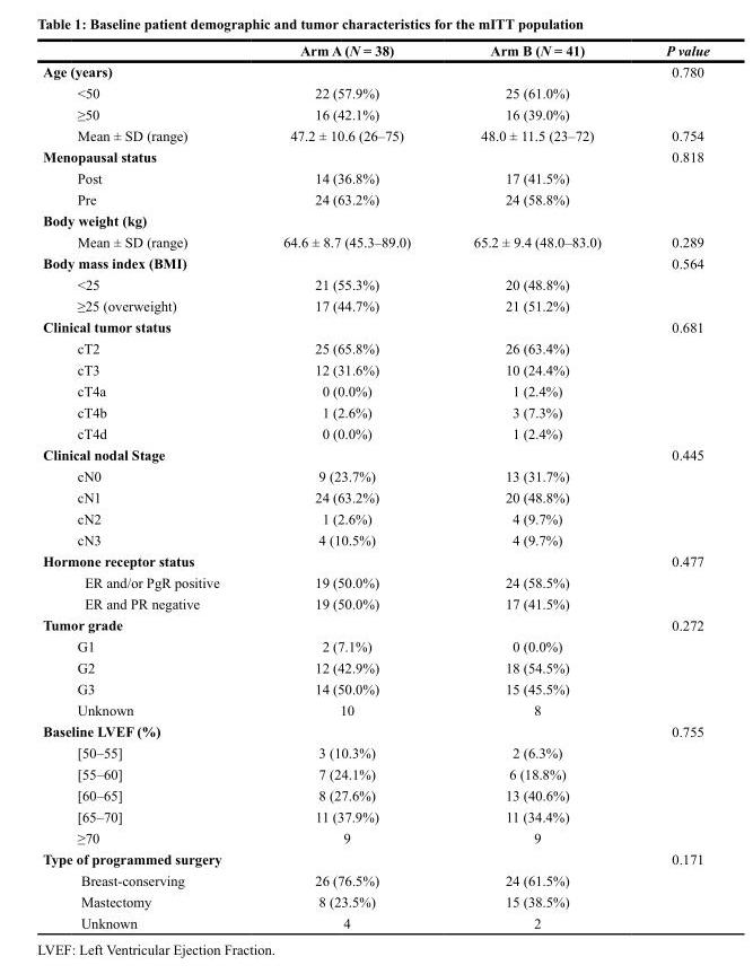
<table><thead><tr><td></td><td>Arm A (N = 38)</td><td>Arm B (N = 41)</td><td>P value</td></tr></thead><tbody><tr><td>Age (years)</td><td></td><td></td><td>0.780</td></tr><tr><td>&lt;50</td><td>22 (57.9%)</td><td>25 (61.0%)</td><td></td></tr><tr><td>≥50</td><td>16 (42.1%)</td><td>16 (39.0%)</td><td></td></tr><tr><td>Mean ± SD (range)</td><td>47.2 ± 10.6 (26–75)</td><td>48.0 ± 11.5 (23–72)</td><td>0.754</td></tr><tr><td>Menopausal status</td><td></td><td></td><td>0.818</td></tr><tr><td>Post</td><td>14 (36.8%)</td><td>17 (41.5%)</td><td></td></tr><tr><td>Pre</td><td>24 (63.2%)</td><td>24 (58.8%)</td><td></td></tr><tr><td colspan="4">Body weight (kg)</td></tr><tr><td>Mean ± SD (range)</td><td>64.6 ± 8.7 (45.3–89.0)</td><td>65.2 ± 9.4 (48.0–83.0)</td><td>0.289</td></tr><tr><td>Body mass index (BMI)</td><td></td><td></td><td>0.564</td></tr><tr><td>&lt;25</td><td>21 (55.3%)</td><td>20 (48.8%)</td><td></td></tr><tr><td>≥25 (overweight)</td><td>17 (44.7%)</td><td>21 (51.2%)</td><td></td></tr><tr><td>Clinical tumor status</td><td></td><td></td><td>0.681</td></tr><tr><td>cT2</td><td>25 (65.8%)</td><td>26 (63.4%)</td><td></td></tr><tr><td>cT3</td><td>12 (31.6%)</td><td>10 (24.4%)</td><td></td></tr><tr><td>cT4a</td><td>0 (0.0%)</td><td>1 (2.4%)</td><td></td></tr><tr><td>cT4b</td><td>1 (2.6%)</td><td>3 (7.3%)</td><td></td></tr><tr><td>cT4d</td><td>0 (0.0%)</td><td>1 (2.4%)</td><td></td></tr><tr><td>Clinical nodal Stage</td><td></td><td></td><td>0.445</td></tr><tr><td>cN0</td><td>9 (23.7%)</td><td>13 (31.7%)</td><td></td></tr><tr><td>cN1</td><td>24 (63.2%)</td><td>20 (48.8%)</td><td></td></tr><tr><td>cN2</td><td>1 (2.6%)</td><td>4 (9.7%)</td><td></td></tr><tr><td>cN3</td><td>4 (10.5%)</td><td>4 (9.7%)</td><td></td></tr><tr><td>Hormone receptor status</td><td></td><td></td><td>0.477</td></tr><tr><td>ER and/or PgR positive</td><td>19 (50.0%)</td><td>24 (58.5%)</td><td></td></tr><tr><td>ER and PR negative</td><td>19 (50.0%)</td><td>17 (41.5%)</td><td></td></tr><tr><td>Tumor grade</td><td></td><td></td><td>0.272</td></tr><tr><td>G1</td><td>2 (7.1%)</td><td>0 (0.0%)</td><td></td></tr><tr><td>G2</td><td>12 (42.9%)</td><td>18 (54.5%)</td><td></td></tr><tr><td>G3</td><td>14 (50.0%)</td><td>15 (45.5%)</td><td></td></tr><tr><td>Unknown</td><td>10</td><td>8</td><td></td></tr><tr><td>Baseline LVEF (%)</td><td></td><td></td><td>0.755</td></tr><tr><td>[50–55]</td><td>3 (10.3%)</td><td>2 (6.3%)</td><td></td></tr><tr><td>[55–60]</td><td>7 (24.1%)</td><td>6 (18.8%)</td><td></td></tr><tr><td>[60–65]</td><td>8 (27.6%)</td><td>13 (40.6%)</td><td></td></tr><tr><td>[65–70]</td><td>11 (37.9%)</td><td>11 (34.4%)</td><td></td></tr><tr><td>≥70</td><td>9</td><td>9</td><td></td></tr><tr><td>Type of programmed surgery</td><td></td><td></td><td>0.171</td></tr><tr><td>Breast-conserving</td><td>26 (76.5%)</td><td>24 (61.5%)</td><td></td></tr><tr><td>Mastectomy</td><td>8 (23.5%)</td><td>15 (38.5%)</td><td></td></tr><tr><td>Unknown</td><td>4</td><td>2</td><td></td></tr></tbody></table>